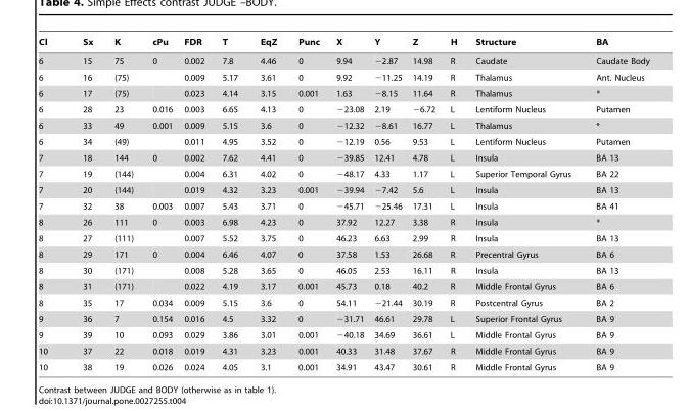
<table><thead><tr><td>Cl</td><td>Sx</td><td>K</td><td>cPu</td><td>FDR</td><td>T</td><td>EqZ</td><td>Punc</td><td>X</td><td>Y</td><td>Z</td><td>H</td><td>Structure</td><td>BA</td></tr></thead><tbody><tr><td>6</td><td>15</td><td>75</td><td>0</td><td>0.002</td><td>7.8</td><td>4.46</td><td>0</td><td>9.94</td><td>−2.87</td><td>14.98</td><td>R</td><td>Caudate</td><td>Caudate Body</td></tr><tr><td>6</td><td>16</td><td>(75)</td><td></td><td>0.009</td><td>5.17</td><td>3.61</td><td>0</td><td>9.92</td><td>−11.25</td><td>14.19</td><td>R</td><td>Thalamus</td><td>Ant. Nucleus</td></tr><tr><td>6</td><td>17</td><td>(75)</td><td></td><td>0.023</td><td>4.14</td><td>3.15</td><td>0.001</td><td>1.63</td><td>−8.15</td><td>11.64</td><td>R</td><td>Thalamus</td><td>*</td></tr><tr><td>6</td><td>28</td><td>23</td><td>0.016</td><td>0.003</td><td>6.65</td><td>4.13</td><td>0</td><td>−23.08</td><td>2.19</td><td>−6.72</td><td>L</td><td>Lentiform Nucleus</td><td>Putamen</td></tr><tr><td>6</td><td>33</td><td>49</td><td>0.001</td><td>0.009</td><td>5.15</td><td>3.6</td><td>0</td><td>−12.32</td><td>−8.61</td><td>16.77</td><td>L</td><td>Thalamus</td><td>*</td></tr><tr><td>6</td><td>34</td><td>(49)</td><td></td><td>0.011</td><td>4.95</td><td>3.52</td><td>0</td><td>−12.19</td><td>0.56</td><td>9.53</td><td>L</td><td>Lentiform Nucleus</td><td>Putamen</td></tr><tr><td>7</td><td>18</td><td>144</td><td>0</td><td>0.002</td><td>7.62</td><td>4.41</td><td>0</td><td>−39.85</td><td>12.41</td><td>4.78</td><td>L</td><td>Insula</td><td>BA 13</td></tr><tr><td>7</td><td>19</td><td>(144)</td><td></td><td>0.004</td><td>6.31</td><td>4.02</td><td>0</td><td>−48.17</td><td>4.33</td><td>1.17</td><td>L</td><td>Superior Temporal Gyrus</td><td>BA 22</td></tr><tr><td>7</td><td>20</td><td>(144)</td><td></td><td>0.019</td><td>4.32</td><td>3.23</td><td>0.001</td><td>−39.94</td><td>−7.42</td><td>5.6</td><td>L</td><td>Insula</td><td>BA 13</td></tr><tr><td>7</td><td>32</td><td>38</td><td>0.003</td><td>0.007</td><td>5.43</td><td>3.71</td><td>0</td><td>−45.71</td><td>−25.46</td><td>17.31</td><td>L</td><td>Insula</td><td>BA 41</td></tr><tr><td>8</td><td>26</td><td>111</td><td>0</td><td>0.003</td><td>6.98</td><td>4.23</td><td>0</td><td>37.92</td><td>12.27</td><td>3.38</td><td>R</td><td>Insula</td><td>*</td></tr><tr><td>8</td><td>27</td><td>(111)</td><td></td><td>0.007</td><td>5.52</td><td>3.75</td><td>0</td><td>46.23</td><td>6.63</td><td>2.99</td><td>R</td><td>Insula</td><td>BA 13</td></tr><tr><td>8</td><td>29</td><td>171</td><td>0</td><td>0.004</td><td>6.46</td><td>4.07</td><td>0</td><td>37.58</td><td>1.53</td><td>26.68</td><td>R</td><td>Precentral Gyrus</td><td>BA 6</td></tr><tr><td>8</td><td>30</td><td>(171)</td><td></td><td>0.008</td><td>5.28</td><td>3.65</td><td>0</td><td>46.05</td><td>2.53</td><td>16.11</td><td>R</td><td>Insula</td><td>BA 13</td></tr><tr><td>8</td><td>31</td><td>(171)</td><td></td><td>0.022</td><td>4.19</td><td>3.17</td><td>0.001</td><td>45.73</td><td>0.18</td><td>40.2</td><td>R</td><td>Middle Frontal Gyrus</td><td>BA 6</td></tr><tr><td>8</td><td>35</td><td>17</td><td>0.034</td><td>0.009</td><td>5.15</td><td>3.6</td><td>0</td><td>54.11</td><td>−21.44</td><td>30.19</td><td>R</td><td>Postcentral Gyrus</td><td>BA 2</td></tr><tr><td>9</td><td>36</td><td>7</td><td>0.154</td><td>0.016</td><td>4.5</td><td>3.32</td><td>0</td><td>−31.71</td><td>46.61</td><td>29.78</td><td>L</td><td>Superior Frontal Gyrus</td><td>BA 9</td></tr><tr><td>9</td><td>39</td><td>10</td><td>0.093</td><td>0.029</td><td>3.86</td><td>3.01</td><td>0.001</td><td>−40.18</td><td>34.69</td><td>36.61</td><td>L</td><td>Middle Frontal Gyrus</td><td>BA 9</td></tr><tr><td>10</td><td>37</td><td>22</td><td>0.018</td><td>0.019</td><td>4.31</td><td>3.23</td><td>0.001</td><td>40.33</td><td>31.48</td><td>37.67</td><td>R</td><td>Middle Frontal Gyrus</td><td>BA 9</td></tr><tr><td>10</td><td>38</td><td>19</td><td>0.026</td><td>0.024</td><td>4.05</td><td>3.1</td><td>0.001</td><td>34.91</td><td>43.47</td><td>30.61</td><td>R</td><td>Middle Frontal Gyrus</td><td>BA 9</td></tr></tbody></table>